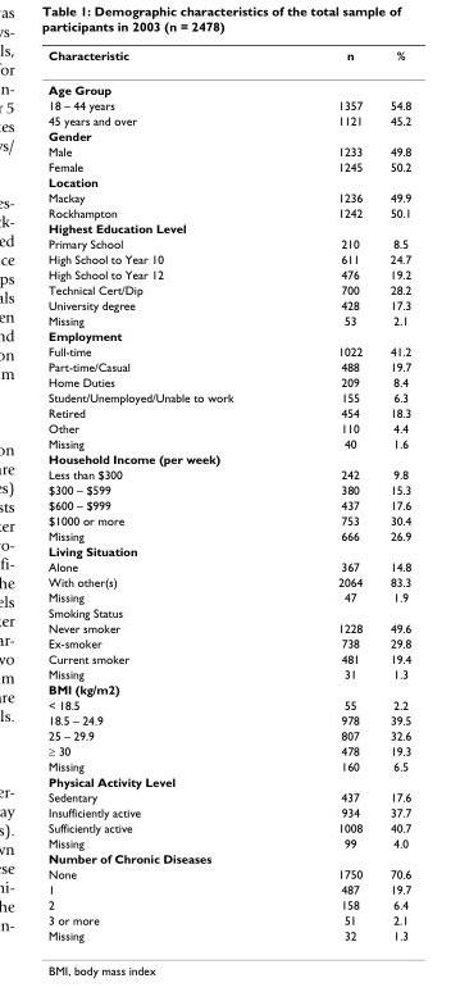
<table><thead><tr><td>Characteristic</td><td>n</td><td>%</td></tr></thead><tbody><tr><td colspan="3">Age Group</td></tr><tr><td>18 – 44 years</td><td>1357</td><td>54.8</td></tr><tr><td>45 years and over</td><td>1121</td><td>45.2</td></tr><tr><td colspan="3">Gender</td></tr><tr><td>Male</td><td>1233</td><td>49.8</td></tr><tr><td>Female</td><td>1245</td><td>50.2</td></tr><tr><td colspan="3">Location</td></tr><tr><td>Mackay</td><td>1236</td><td>49.9</td></tr><tr><td>Rockhampton</td><td>1242</td><td>50.1</td></tr><tr><td colspan="3">Highest Education Level</td></tr><tr><td>Primary School</td><td>210</td><td>8.5</td></tr><tr><td>High School to Year 10</td><td>611</td><td>24.7</td></tr><tr><td>High School to Year 12</td><td>476</td><td>19.2</td></tr><tr><td>Technical Cert/Dip</td><td>700</td><td>28.2</td></tr><tr><td>University degree</td><td>428</td><td>17.3</td></tr><tr><td>Missing</td><td>53</td><td>2.1</td></tr><tr><td colspan="3">Employment</td></tr><tr><td>Full-time</td><td>1022</td><td>41.2</td></tr><tr><td>Part-time/Casual</td><td>488</td><td>19.7</td></tr><tr><td>Home Duties</td><td>209</td><td>8.4</td></tr><tr><td>Student/Unemployed/Unable to work</td><td>155</td><td>6.3</td></tr><tr><td>Retired</td><td>454</td><td>18.3</td></tr><tr><td>Other</td><td>110</td><td>4.4</td></tr><tr><td>Missing</td><td>40</td><td>1.6</td></tr><tr><td colspan="3">Household Income (per week)</td></tr><tr><td>Less than $300</td><td>242</td><td>9.8</td></tr><tr><td>$300 – $599</td><td>380</td><td>15.3</td></tr><tr><td>$600 – $999</td><td>437</td><td>17.6</td></tr><tr><td>$1000 or more</td><td>753</td><td>30.4</td></tr><tr><td>Missing</td><td>666</td><td>26.9</td></tr><tr><td colspan="3">Living Situation</td></tr><tr><td>Alone</td><td>367</td><td>14.8</td></tr><tr><td>With other(s)</td><td>2064</td><td>83.3</td></tr><tr><td>Missing</td><td>47</td><td>1.9</td></tr><tr><td colspan="3">Smoking Status</td></tr><tr><td>Never smoker</td><td>1228</td><td>49.6</td></tr><tr><td>Ex-smoker</td><td>738</td><td>29.8</td></tr><tr><td>Current smoker</td><td>481</td><td>19.4</td></tr><tr><td>Missing</td><td>31</td><td>1.3</td></tr><tr><td colspan="3">BMI (kg/m2)</td></tr><tr><td>&lt; 18.5</td><td>55</td><td>2.2</td></tr><tr><td>18.5 – 24.9</td><td>978</td><td>39.5</td></tr><tr><td>25 – 29.9</td><td>807</td><td>32.6</td></tr><tr><td>≥ 30</td><td>478</td><td>19.3</td></tr><tr><td>Missing</td><td>160</td><td>6.5</td></tr><tr><td colspan="3">Physical Activity Level</td></tr><tr><td>Sedentary</td><td>437</td><td>17.6</td></tr><tr><td>Insufficiently active</td><td>934</td><td>37.7</td></tr><tr><td>Sufficiently active</td><td>1008</td><td>40.7</td></tr><tr><td>Missing</td><td>99</td><td>4.0</td></tr><tr><td colspan="3">Number of Chronic Diseases</td></tr><tr><td>None</td><td>1750</td><td>70.6</td></tr><tr><td>1</td><td>487</td><td>19.7</td></tr><tr><td>2</td><td>158</td><td>6.4</td></tr><tr><td>3 or more</td><td>51</td><td>2.1</td></tr><tr><td>Missing</td><td>32</td><td>1.3</td></tr></tbody></table>